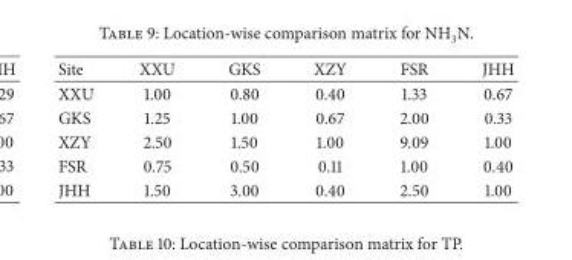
<table><thead><tr><td>Site</td><td>XXU</td><td>GKS</td><td>XZY</td><td>FSR</td><td>JHH</td></tr></thead><tbody><tr><td>XXU</td><td>1.00</td><td>0.80</td><td>0.40</td><td>1.33</td><td>0.67</td></tr><tr><td>GKS</td><td>1.25</td><td>1.00</td><td>0.67</td><td>2.00</td><td>0.33</td></tr><tr><td>XZY</td><td>2.50</td><td>1.50</td><td>1.00</td><td>9.09</td><td>1.00</td></tr><tr><td>FSR</td><td>0.75</td><td>0.50</td><td>0.11</td><td>1.00</td><td>0.40</td></tr><tr><td>JHH</td><td>1.50</td><td>3.00</td><td>0.40</td><td>2.50</td><td>1.00</td></tr></tbody></table>